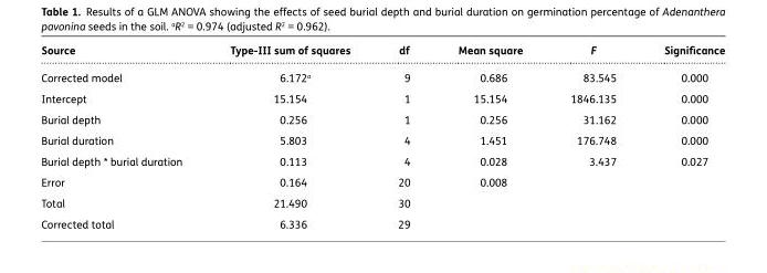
<table><thead><tr><td>Source</td><td>Type-III sum of squares</td><td>df</td><td>Mean square</td><td>F</td><td>Significance</td></tr></thead><tbody><tr><td>Corrected model</td><td>6.172<sup>a</sup></td><td>9</td><td>0.686</td><td>83.545</td><td>0.000</td></tr><tr><td>Intercept</td><td>15.154</td><td>1</td><td>15.154</td><td>1846.135</td><td>0.000</td></tr><tr><td>Burial depth</td><td>0.256</td><td>1</td><td>0.256</td><td>31.162</td><td>0.000</td></tr><tr><td>Burial duration</td><td>5.803</td><td>4</td><td>1.451</td><td>176.748</td><td>0.000</td></tr><tr><td>Burial depth * burial duration</td><td>0.113</td><td>4</td><td>0.028</td><td>3.437</td><td>0.027</td></tr><tr><td>Error</td><td>0.164</td><td>20</td><td>0.008</td><td></td><td></td></tr><tr><td>Total</td><td>21.490</td><td>30</td><td></td><td></td><td></td></tr><tr><td>Corrected total</td><td>6.336</td><td>29</td><td></td><td></td><td></td></tr></tbody></table>